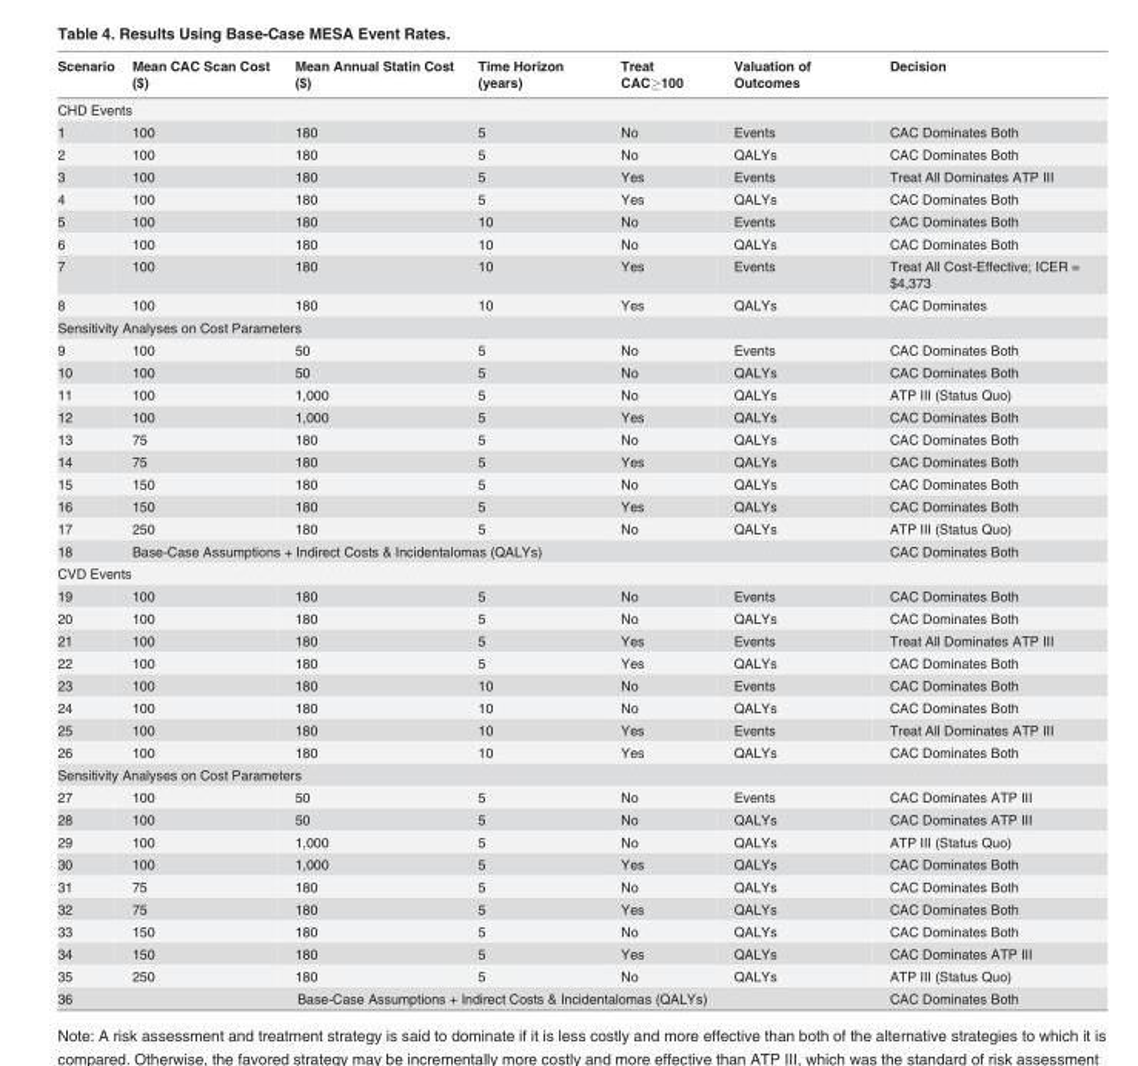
<table><thead><tr><td>Scenario</td><td>Mean CAC Scan Cost ($)</td><td>Mean Annual Statin Cost ($)</td><td>Time Horizon (years)</td><td>Treat CAC≥100</td><td>Valuation of Outcomes</td><td>Decision</td></tr></thead><tbody><tr><td colspan="7">CHD Events</td></tr><tr><td>1</td><td>100</td><td>180</td><td>5</td><td>No</td><td>Events</td><td>CAC Dominates Both</td></tr><tr><td>2</td><td>100</td><td>180</td><td>5</td><td>No</td><td>QALYs</td><td>CAC Dominates Both</td></tr><tr><td>3</td><td>100</td><td>180</td><td>5</td><td>Yes</td><td>Events</td><td>Treat All Dominates ATP III</td></tr><tr><td>4</td><td>100</td><td>180</td><td>5</td><td>Yes</td><td>QALYs</td><td>CAC Dominates Both</td></tr><tr><td>5</td><td>100</td><td>180</td><td>10</td><td>No</td><td>Events</td><td>CAC Dominates Both</td></tr><tr><td>6</td><td>100</td><td>180</td><td>10</td><td>No</td><td>QALYs</td><td>CAC Dominates Both</td></tr><tr><td>7</td><td>100</td><td>180</td><td>10</td><td>Yes</td><td>Events</td><td>Treat All Cost-Effective; ICER = $4,373</td></tr><tr><td>8</td><td>100</td><td>180</td><td>10</td><td>Yes</td><td>QALYs</td><td>CAC Dominates</td></tr><tr><td colspan="7">Sensitivity Analyses on Cost Parameters</td></tr><tr><td>9</td><td>100</td><td>50</td><td>5</td><td>No</td><td>Events</td><td>CAC Dominates Both</td></tr><tr><td>10</td><td>100</td><td>50</td><td>5</td><td>No</td><td>QALYs</td><td>CAC Dominates Both</td></tr><tr><td>11</td><td>100</td><td>1,000</td><td>5</td><td>No</td><td>QALYs</td><td>ATP III (Status Quo)</td></tr><tr><td>12</td><td>100</td><td>1,000</td><td>5</td><td>Yes</td><td>QALYs</td><td>CAC Dominates Both</td></tr><tr><td>13</td><td>75</td><td>180</td><td>5</td><td>No</td><td>QALYs</td><td>CAC Dominates Both</td></tr><tr><td>14</td><td>75</td><td>180</td><td>5</td><td>Yes</td><td>QALYs</td><td>CAC Dominates Both</td></tr><tr><td>15</td><td>150</td><td>180</td><td>5</td><td>No</td><td>QALYs</td><td>CAC Dominates Both</td></tr><tr><td>16</td><td>150</td><td>180</td><td>5</td><td>Yes</td><td>QALYs</td><td>CAC Dominates Both</td></tr><tr><td>17</td><td>250</td><td>180</td><td>5</td><td>No</td><td>QALYs</td><td>ATP III (Status Quo)</td></tr><tr><td>18</td><td colspan="5">Base-Case Assumptions + Indirect Costs &amp; Incidentalomas (QALYs)</td><td>CAC Dominates Both</td></tr><tr><td colspan="7">CVD Events</td></tr><tr><td>19</td><td>100</td><td>180</td><td>5</td><td>No</td><td>Events</td><td>CAC Dominates Both</td></tr><tr><td>20</td><td>100</td><td>180</td><td>5</td><td>No</td><td>QALYs</td><td>CAC Dominates Both</td></tr><tr><td>21</td><td>100</td><td>180</td><td>5</td><td>Yes</td><td>Events</td><td>Treat All Dominates ATP III</td></tr><tr><td>22</td><td>100</td><td>180</td><td>5</td><td>Yes</td><td>QALYs</td><td>CAC Dominates Both</td></tr><tr><td>23</td><td>100</td><td>180</td><td>10</td><td>No</td><td>Events</td><td>CAC Dominates Both</td></tr><tr><td>24</td><td>100</td><td>180</td><td>10</td><td>No</td><td>QALYs</td><td>CAC Dominates Both</td></tr><tr><td>25</td><td>100</td><td>180</td><td>10</td><td>Yes</td><td>Events</td><td>Treat All Dominates ATP III</td></tr><tr><td>26</td><td>100</td><td>180</td><td>10</td><td>Yes</td><td>QALYs</td><td>CAC Dominates Both</td></tr><tr><td colspan="7">Sensitivity Analyses on Cost Parameters</td></tr><tr><td>27</td><td>100</td><td>50</td><td>5</td><td>No</td><td>Events</td><td>CAC Dominates ATP III</td></tr><tr><td>28</td><td>100</td><td>50</td><td>5</td><td>No</td><td>QALYs</td><td>CAC Dominates ATP III</td></tr><tr><td>29</td><td>100</td><td>1,000</td><td>5</td><td>No</td><td>QALYs</td><td>ATP III (Status Quo)</td></tr><tr><td>30</td><td>100</td><td>1,000</td><td>5</td><td>Yes</td><td>QALYs</td><td>CAC Dominates Both</td></tr><tr><td>31</td><td>75</td><td>180</td><td>5</td><td>No</td><td>QALYs</td><td>CAC Dominates Both</td></tr><tr><td>32</td><td>75</td><td>180</td><td>5</td><td>Yes</td><td>QALYs</td><td>CAC Dominates Both</td></tr><tr><td>33</td><td>150</td><td>180</td><td>5</td><td>No</td><td>QALYs</td><td>CAC Dominates Both</td></tr><tr><td>34</td><td>150</td><td>180</td><td>5</td><td>Yes</td><td>QALYs</td><td>CAC Dominates ATP III</td></tr><tr><td>35</td><td>250</td><td>180</td><td>5</td><td>No</td><td>QALYs</td><td>ATP III (Status Quo)</td></tr><tr><td>36</td><td colspan="5">Base-Case Assumptions + Indirect Costs &amp; Incidentalomas (QALYs)</td><td>CAC Dominates Both</td></tr></tbody></table>